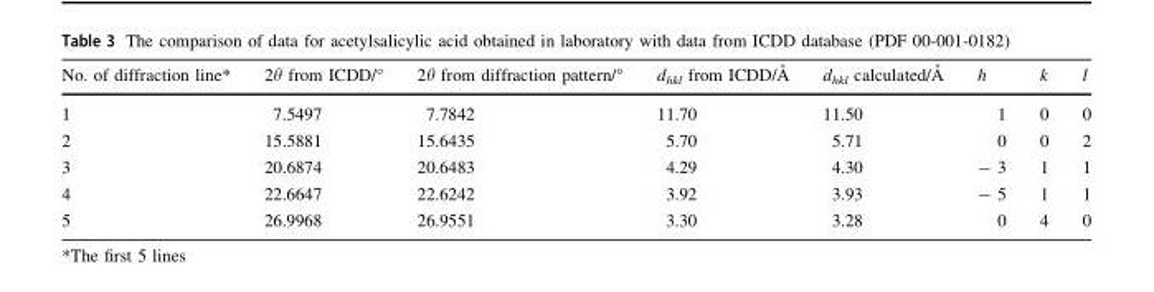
<table><thead><tr><td>No. of diffraction line*</td><td>2θ from ICDD/°</td><td>2θ from diffraction pattern/°</td><td>dhkl from ICDD/A˚</td><td>dhkl calculated/A˚</td><td>h</td><td>k</td><td>l</td></tr></thead><tbody><tr><td>1</td><td>7.5497</td><td>7.7842</td><td>11.70</td><td>11.50</td><td>1</td><td>0</td><td>0</td></tr><tr><td>2</td><td>15.5881</td><td>15.6435</td><td>5.70</td><td>5.71</td><td>0</td><td>0</td><td>2</td></tr><tr><td>3</td><td>20.6874</td><td>20.6483</td><td>4.29</td><td>4.30</td><td>- 3</td><td>1</td><td>1</td></tr><tr><td>4</td><td>22.6647</td><td>22.6242</td><td>3.92</td><td>3.93</td><td>- 5</td><td>1</td><td>1</td></tr><tr><td>5</td><td>26.9968</td><td>26.9551</td><td>3.30</td><td>3.28</td><td>0</td><td>4</td><td>0</td></tr></tbody></table>